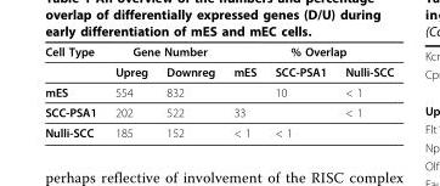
<table><thead><tr><td rowspan="2">Cell Type</td><td colspan="2">Gene Number</td><td colspan="3">% Overlap</td></tr><tr><td>Upreg</td><td>Downreg</td><td>mES</td><td>SCC-PSA1</td><td>Nulli-SCC</td></tr></thead><tbody><tr><td>mES</td><td>554</td><td>832</td><td></td><td>10</td><td>&lt; 1</td></tr><tr><td>SCC-PSA1</td><td>202</td><td>522</td><td>33</td><td></td><td>&lt; 1</td></tr><tr><td>Nulli-SCC</td><td>185</td><td>152</td><td>&lt; 1</td><td>&lt; 1</td><td></td></tr></tbody></table>